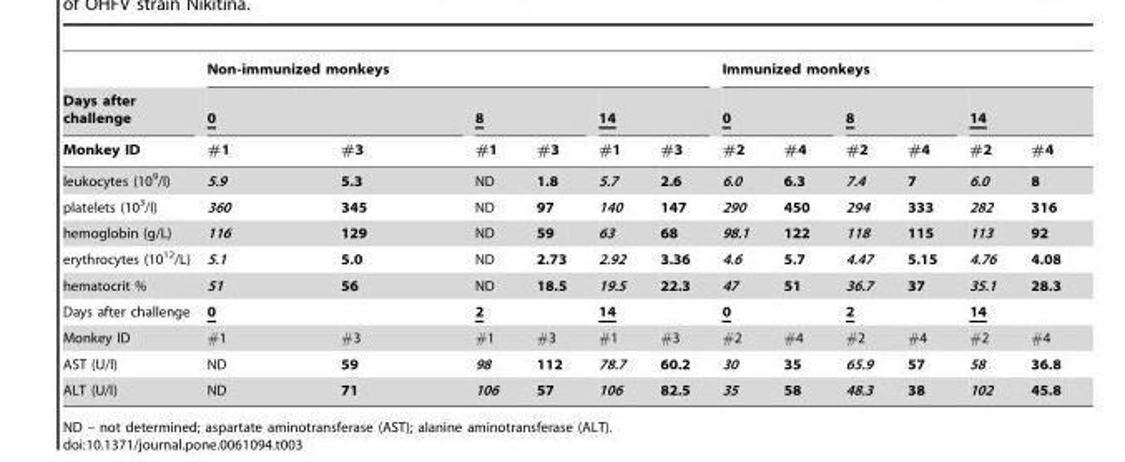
<table><thead><tr><td rowspan="3">Days after challenge Monkey ID</td><td colspan="6">Non-immunized monkeys</td><td colspan="6">Immunized monkeys</td></tr><tr><td colspan="2">0</td><td colspan="2">8</td><td colspan="2">14</td><td colspan="2">0</td><td colspan="2">8</td><td colspan="2">14</td></tr><tr><td>#1</td><td>#3</td><td>#1</td><td>#3</td><td>#1</td><td>#3</td><td>#2</td><td>#4</td><td>#2</td><td>#4</td><td>#2</td><td>#4</td></tr></thead><tbody><tr><td>leukocytes (10<sup>9</sup>/l)</td><td>5.9</td><td>5.3</td><td>ND</td><td>1.8</td><td>5.7</td><td>2.6</td><td>6.0</td><td>6.3</td><td>7.4</td><td>7</td><td>6.0</td><td>8</td></tr><tr><td>platelets (10<sup>3</sup>/l)</td><td>360</td><td>345</td><td>ND</td><td>97</td><td>140</td><td>147</td><td>290</td><td>450</td><td>294</td><td>333</td><td>282</td><td>316</td></tr><tr><td>hemoglobin (g/L)</td><td>116</td><td>129</td><td>ND</td><td>59</td><td>63</td><td>68</td><td>98.1</td><td>122</td><td>118</td><td>115</td><td>113</td><td>92</td></tr><tr><td>erythrocytes (10<sup>12</sup>/L)</td><td>5.1</td><td>5.0</td><td>ND</td><td>2.73</td><td>2.92</td><td>3.36</td><td>4.6</td><td>5.7</td><td>4.47</td><td>5.15</td><td>4.76</td><td>4.08</td></tr><tr><td>hematocrit %</td><td>51</td><td>56</td><td>ND</td><td>18.5</td><td>19.5</td><td>22.3</td><td>47</td><td>51</td><td>36.7</td><td>37</td><td>35.1</td><td>28.3</td></tr><tr><td>Days after challenge</td><td colspan="2">0</td><td colspan="2">2</td><td colspan="2">14</td><td colspan="2">0</td><td colspan="2">2</td><td colspan="2">14</td></tr><tr><td>Monkey ID</td><td>#1</td><td>#3</td><td>#1</td><td>#3</td><td>#1</td><td>#3</td><td>#2</td><td>#4</td><td>#2</td><td>#4</td><td>#2</td><td>#4</td></tr><tr><td>AST (U/l)</td><td>ND</td><td>59</td><td>98</td><td>112</td><td>78.7</td><td>60.2</td><td>30</td><td>35</td><td>65.9</td><td>57</td><td>58</td><td>36.8</td></tr><tr><td>ALT (U/l)</td><td>ND</td><td>71</td><td>106</td><td>57</td><td>106</td><td>82.5</td><td>35</td><td>58</td><td>48.3</td><td>38</td><td>102</td><td>45.8</td></tr></tbody></table>